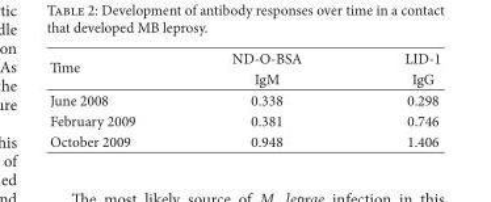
<table><thead><tr><td rowspan="2">Time</td><td rowspan="2">ND-O-BSA IgM</td><td rowspan="2">LID-1 IgG</td></tr><tr></tr></thead><tbody><tr><td>June 2008</td><td>0.338</td><td>0.298</td></tr><tr><td>February 2009</td><td>0.381</td><td>0.746</td></tr><tr><td>October 2009</td><td>0.948</td><td>1.406</td></tr></tbody></table>